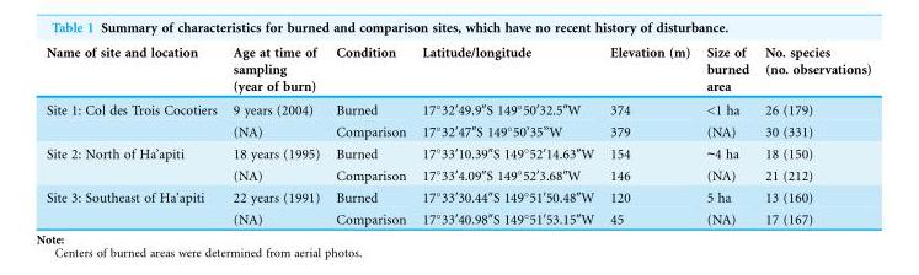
<table><thead><tr><td>Name of site and location</td><td>Age at time of sampling (year of burn)</td><td>Condition</td><td>Latitude/longitude</td><td>Elevation (m)</td><td>Size of burned area</td><td>No. species (no. observations)</td></tr></thead><tbody><tr><td rowspan="2">Site 1: Col des Trois Cocotiers</td><td>9 years (2004)</td><td>Burned</td><td>17°32′49.9″S 149°50′32.5″W</td><td>374</td><td>&lt;1 ha</td><td>26 (179)</td></tr><tr><td>(NA)</td><td>Comparison</td><td>17°32′47″S 149°50’35”W</td><td>379</td><td>(NA)</td><td>30 (331)</td></tr><tr><td rowspan="2">Site 2: North of Ha’apiti</td><td>18 years (1995)</td><td>Burned</td><td>17°33′10.39″S 149°52′14.63″W</td><td>154</td><td>∼4 ha</td><td>18 (150)</td></tr><tr><td>(NA)</td><td>Comparison</td><td>17°33′4.09″S 149°52′3.68″W</td><td>146</td><td>(NA)</td><td>21 (212)</td></tr><tr><td rowspan="2">Site 3: Southeast of Ha’apiti</td><td>22 years (1991)</td><td>Burned</td><td>17°33′30.44″S 149°51′50.48″W</td><td>120</td><td>5 ha</td><td>13 (160)</td></tr><tr><td>(NA)</td><td>Comparison</td><td>17°33′40.98″S 149°51′53.15″W</td><td>45</td><td>(NA)</td><td>17 (167)</td></tr></tbody></table>